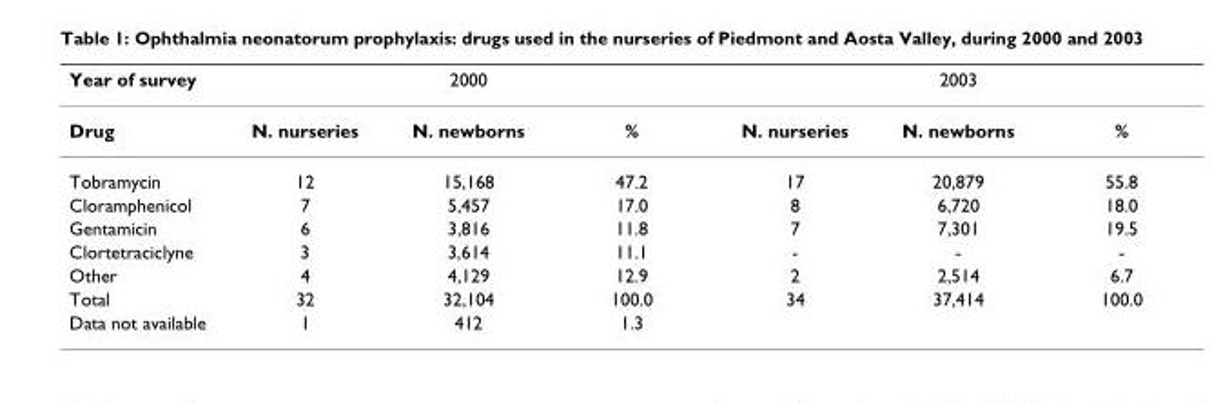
<table><thead><tr><td rowspan="2">Year of survey Drug</td><td colspan="3">2000</td><td colspan="3">2003</td></tr><tr><td>N. nurseries</td><td>N. newborns</td><td>%</td><td>N. nurseries</td><td>N. newborns</td><td>%</td></tr></thead><tbody><tr><td>Tobramycin</td><td>12</td><td>15,168</td><td>47.2</td><td>17</td><td>20,879</td><td>55.8</td></tr><tr><td>Cloramphenicol</td><td>7</td><td>5,457</td><td>17.0</td><td>8</td><td>6,720</td><td>18.0</td></tr><tr><td>Gentamicin</td><td>6</td><td>3,816</td><td>11.8</td><td>7</td><td>7,301</td><td>19.5</td></tr><tr><td>Clortetraciclyne</td><td>3</td><td>3,614</td><td>11.1</td><td>-</td><td>-</td><td>-</td></tr><tr><td>Other</td><td>4</td><td>4,129</td><td>12.9</td><td>2</td><td>2,514</td><td>6.7</td></tr><tr><td>Total</td><td>32</td><td>32,104</td><td>100.0</td><td>34</td><td>37,414</td><td>100.0</td></tr><tr><td>Data not available</td><td>1</td><td>412</td><td>1.3</td><td></td><td></td><td></td></tr></tbody></table>